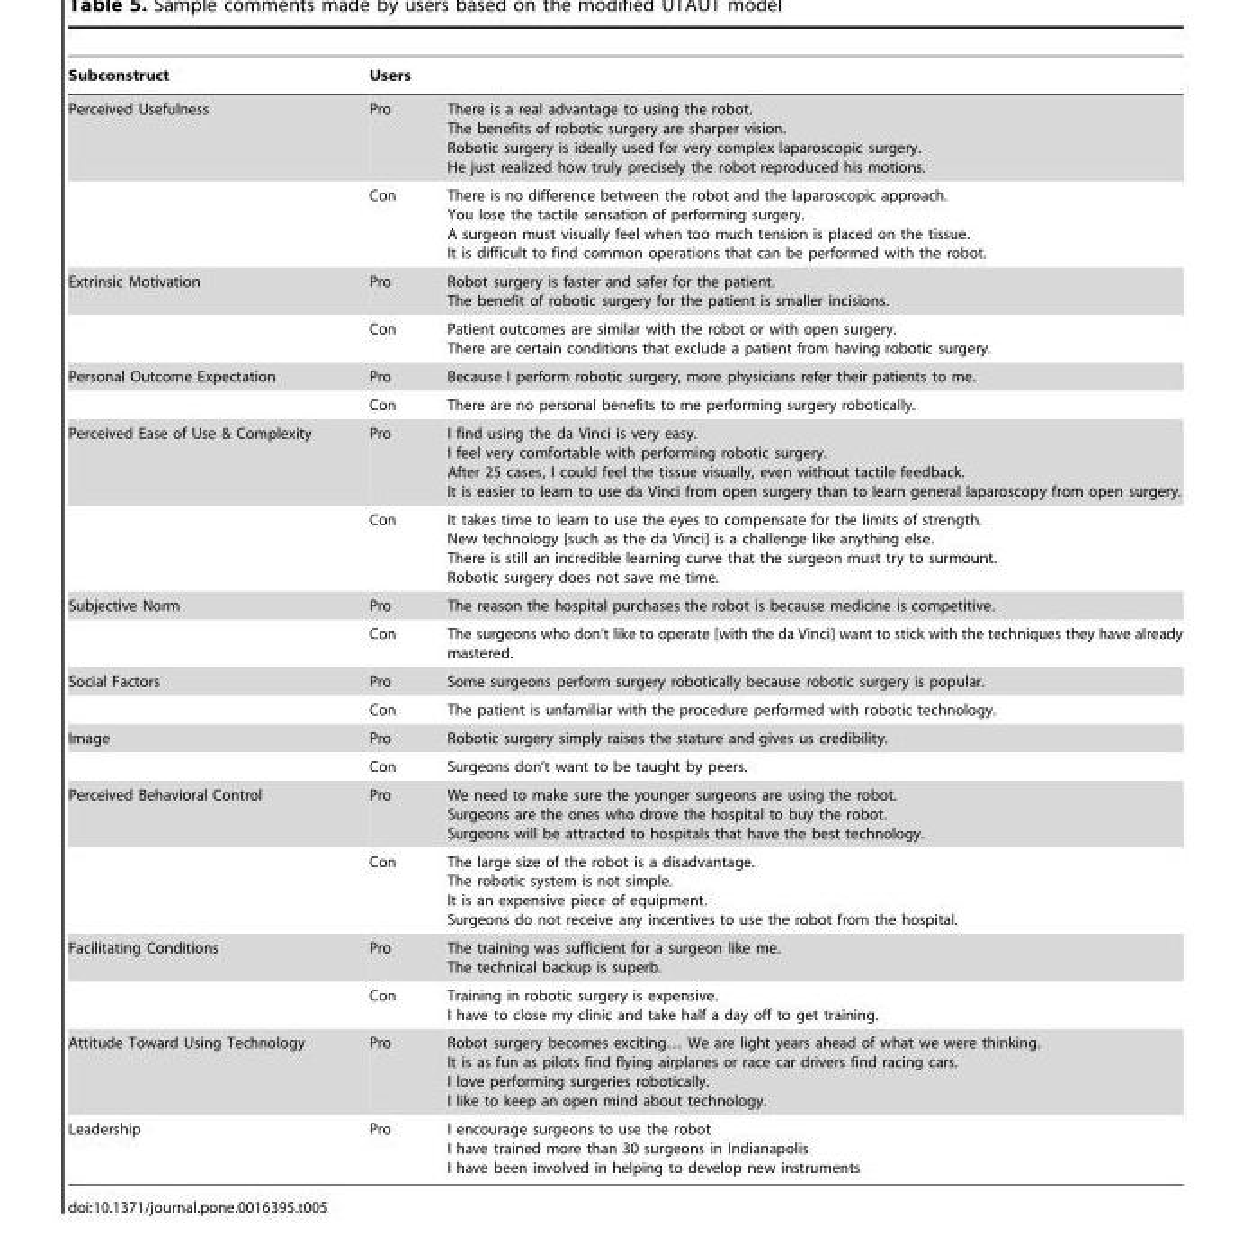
<table><thead><tr><td rowspan="2">Subconstruct Perceived Usefulness</td><td colspan="2">Users</td></tr><tr><td>Pro</td><td>There is a real advantage to using the robot. The benefits of robotic surgery are sharper vision. Robotic surgery is ideally used for very complex laparoscopic surgery. He just realized how truly precisely the robot reproduced his motions.</td></tr></thead><tbody><tr><td></td><td>Con</td><td>There is no difference between the robot and the laparoscopic approach. You lose the tactile sensation of performing surgery. A surgeon must visually feel when too much tension is placed on the tissue. It is difficult to find common operations that can be performed with the robot.</td></tr><tr><td rowspan="2">Extrinsic Motivation</td><td>Pro</td><td>Robot surgery is faster and safer for the patient. The benefit of robotic surgery for the patient is smaller incisions.</td></tr><tr><td>Con</td><td>Patient outcomes are similar with the robot or with open surgery. There are certain conditions that exclude a patient from having robotic surgery.</td></tr><tr><td rowspan="2">Personal Outcome Expectation</td><td>Pro</td><td>Because I perform robotic surgery, more physicians refer their patients to me.</td></tr><tr><td>Con</td><td>There are no personal benefits to me performing surgery robotically.</td></tr><tr><td rowspan="2">Perceived Ease of Use &amp; Complexity</td><td>Pro</td><td>I find using the da Vinci is very easy. I feel very comfortable with performing robotic surgery. After 25 cases, I could feel the tissue visually, even without tactile feedback. It is easier to learn to use da Vinci from open surgery than to learn general laparoscopy from open surgery.</td></tr><tr><td>Con</td><td>It takes time to learn to use the eyes to compensate for the limits of strength. New technology [such as the da Vinci] is a challenge like anything else. There is still an incredible learning curve that the surgeon must try to surmount. Robotic surgery does not save me time.</td></tr><tr><td rowspan="2">Subjective Norm</td><td>Pro</td><td>The reason the hospital purchases the robot is because medicine is competitive.</td></tr><tr><td>Con</td><td>The surgeons who don’t like to operate [with the da Vinci] want to stick with the techniques they have already mastered.</td></tr><tr><td rowspan="2">Social Factors</td><td>Pro</td><td>Some surgeons perform surgery robotically because robotic surgery is popular.</td></tr><tr><td>Con</td><td>The patient is unfamiliar with the procedure performed with robotic technology.</td></tr><tr><td rowspan="2">Image</td><td>Pro</td><td>Robotic surgery simply raises the stature and gives us credibility.</td></tr><tr><td>Con</td><td>Surgeons don’t want to be taught by peers.</td></tr><tr><td rowspan="2">Perceived Behavioral Control</td><td>Pro</td><td>We need to make sure the younger surgeons are using the robot. Surgeons are the ones who drove the hospital to buy the robot. Surgeons will be attracted to hospitals that have the best technology.</td></tr><tr><td>Con</td><td>The large size of the robot is a disadvantage. The robotic system is not simple. It is an expensive piece of equipment. Surgeons do not receive any incentives to use the robot from the hospital.</td></tr><tr><td rowspan="2">Facilitating Conditions</td><td>Pro</td><td>The training was sufficient for a surgeon like me. The technical backup is superb.</td></tr><tr><td>Con</td><td>Training in robotic surgery is expensive. I have to close my clinic and take half a day off to get training.</td></tr><tr><td>Attitude Toward Using Technology</td><td>Pro</td><td>Robot surgery becomes exciting… We are light years ahead of what we were thinking. It is as fun as pilots find flying airplanes or race car drivers find racing cars. I love performing surgeries robotically. I like to keep an open mind about technology.</td></tr><tr><td>Leadership</td><td>Pro</td><td>I encourage surgeons to use the robot I have trained more than 30 surgeons in Indianapolis I have been involved in helping to develop new instruments</td></tr></tbody></table>